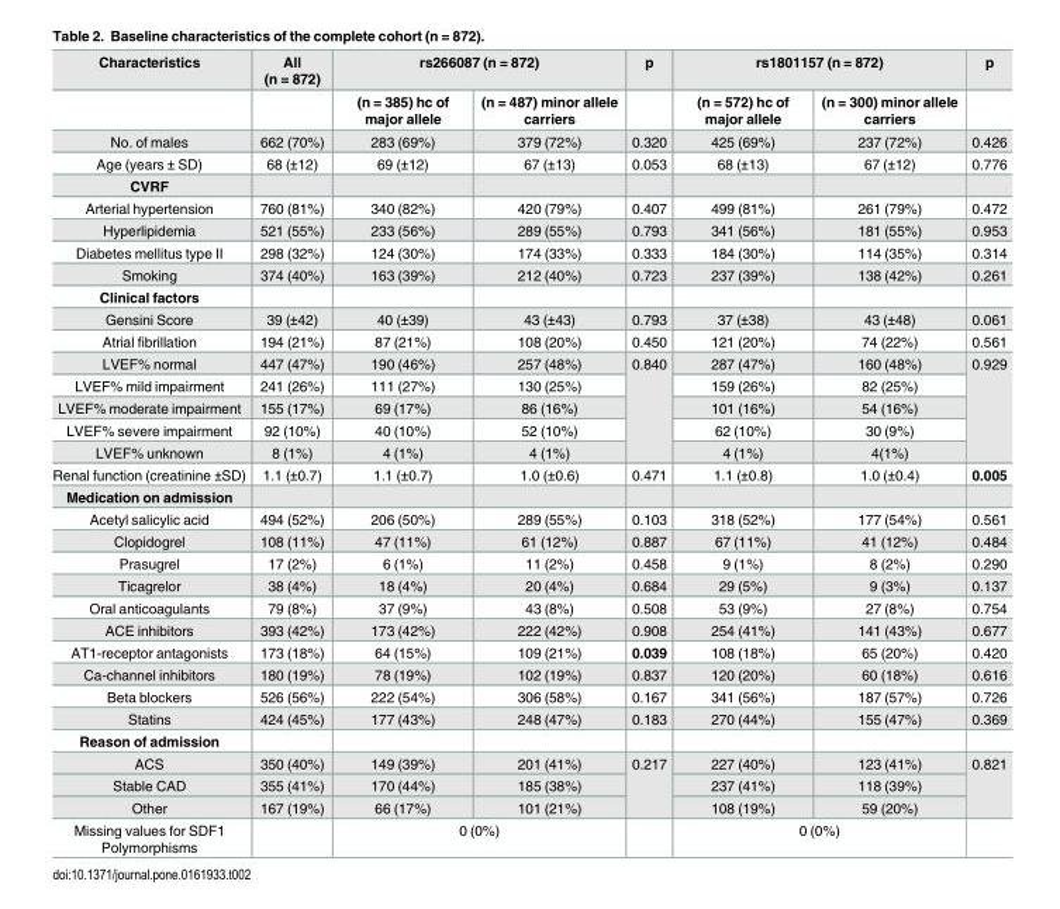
<table><thead><tr><td rowspan="2">Characteristics</td><td rowspan="2">All (n = 872)</td><td colspan="2">rs266087 (n = 872)</td><td rowspan="2">p</td><td colspan="2">rs1801157 (n = 872)</td><td rowspan="2">p</td></tr><tr><td>(n = 385) hc of major allele</td><td>(n = 487) minor allele carriers</td><td>(n = 572) hc of major allele</td><td>(n = 300) minor allele carriers</td></tr></thead><tbody><tr><td>No. of males</td><td>662 (70%)</td><td>283 (69%)</td><td>379 (72%)</td><td>0.320</td><td>425 (69%)</td><td>237 (72%)</td><td>0.426</td></tr><tr><td>Age (years ± SD)</td><td>68 (±12)</td><td>69 (±12)</td><td>67 (±13)</td><td>0.053</td><td>68 (±13)</td><td>67 (±12)</td><td>0.776</td></tr><tr><td colspan="8">CVRF</td></tr><tr><td>Arterial hypertension</td><td>760 (81%)</td><td>340 (82%)</td><td>420 (79%)</td><td>0.407</td><td>499 (81%)</td><td>261 (79%)</td><td>0.472</td></tr><tr><td>Hyperlipidemia</td><td>521 (55%)</td><td>233 (56%)</td><td>289 (55%)</td><td>0.793</td><td>341 (56%)</td><td>181 (55%)</td><td>0.953</td></tr><tr><td>Diabetes mellitus type II</td><td>298 (32%)</td><td>124 (30%)</td><td>174 (33%)</td><td>0.333</td><td>184 (30%)</td><td>114 (35%)</td><td>0.314</td></tr><tr><td>Smoking</td><td>374 (40%)</td><td>163 (39%)</td><td>212 (40%)</td><td>0.723</td><td>237 (39%)</td><td>138 (42%)</td><td>0.261</td></tr><tr><td colspan="8">Clinical factors</td></tr><tr><td>Gensini Score</td><td>39 (±42)</td><td>40 (±39)</td><td>43 (±43)</td><td>0.793</td><td>37 (±38)</td><td>43 (±48)</td><td>0.061</td></tr><tr><td>Atrial fibrillation</td><td>194 (21%)</td><td>87 (21%)</td><td>108 (20%)</td><td>0.450</td><td>121 (20%)</td><td>74 (22%)</td><td>0.561</td></tr><tr><td>LVEF% normal</td><td>447 (47%)</td><td>190 (46%)</td><td>257 (48%)</td><td rowspan="5">0.840</td><td>287 (47%)</td><td>160 (48%)</td><td rowspan="5">0.929</td></tr><tr><td>LVEF% mild impairment</td><td>241 (26%)</td><td>111 (27%)</td><td>130 (25%)</td><td>159 (26%)</td><td>82 (25%)</td></tr><tr><td>LVEF% moderate impairment</td><td>155 (17%)</td><td>69 (17%)</td><td>86 (16%)</td><td>101 (16%)</td><td>54 (16%)</td></tr><tr><td>LVEF% severe impairment</td><td>92 (10%)</td><td>40 (10%)</td><td>52 (10%)</td><td>62 (10%)</td><td>30 (9%)</td></tr><tr><td>LVEF% unknown</td><td>8 (1%)</td><td>4 (1%)</td><td>4 (1%)</td><td>4 (1%)</td><td>4(1%)</td></tr><tr><td>Renal function (creatinine ±SD)</td><td>1.1 (±0.7)</td><td>1.1 (±0.7)</td><td>1.0 (±0.6)</td><td>0.471</td><td>1.1 (±0.8)</td><td>1.0 (±0.4)</td><td>0.005</td></tr><tr><td colspan="8">Medication on admission</td></tr><tr><td>Acetyl salicylic acid</td><td>494 (52%)</td><td>206 (50%)</td><td>289 (55%)</td><td>0.103</td><td>318 (52%)</td><td>177 (54%)</td><td>0.561</td></tr><tr><td>Clopidogrel</td><td>108 (11%)</td><td>47 (11%)</td><td>61 (12%)</td><td>0.887</td><td>67 (11%)</td><td>41 (12%)</td><td>0.484</td></tr><tr><td>Prasugrel</td><td>17 (2%)</td><td>6 (1%)</td><td>11 (2%)</td><td>0.458</td><td>9 (1%)</td><td>8 (2%)</td><td>0.290</td></tr><tr><td>Ticagrelor</td><td>38 (4%)</td><td>18 (4%)</td><td>20 (4%)</td><td>0.684</td><td>29 (5%)</td><td>9 (3%)</td><td>0.137</td></tr><tr><td>Oral anticoagulants</td><td>79 (8%)</td><td>37 (9%)</td><td>43 (8%)</td><td>0.508</td><td>53 (9%)</td><td>27 (8%)</td><td>0.754</td></tr><tr><td>ACE inhibitors</td><td>393 (42%)</td><td>173 (42%)</td><td>222 (42%)</td><td>0.908</td><td>254 (41%)</td><td>141 (43%)</td><td>0.677</td></tr><tr><td>AT1-receptor antagonists</td><td>173 (18%)</td><td>64 (15%)</td><td>109 (21%)</td><td>0.039</td><td>108 (18%)</td><td>65 (20%)</td><td>0.420</td></tr><tr><td>Ca-channel inhibitors</td><td>180 (19%)</td><td>78 (19%)</td><td>102 (19%)</td><td>0.837</td><td>120 (20%)</td><td>60 (18%)</td><td>0.616</td></tr><tr><td>Beta blockers</td><td>526 (56%)</td><td>222 (54%)</td><td>306 (58%)</td><td>0.167</td><td>341 (56%)</td><td>187 (57%)</td><td>0.726</td></tr><tr><td>Statins</td><td>424 (45%)</td><td>177 (43%)</td><td>248 (47%)</td><td>0.183</td><td>270 (44%)</td><td>155 (47%)</td><td>0.369</td></tr><tr><td colspan="8">Reason of admission</td></tr><tr><td>ACS</td><td>350 (40%)</td><td>149 (39%)</td><td>201 (41%)</td><td rowspan="3">0.217</td><td>227 (40%)</td><td>123 (41%)</td><td rowspan="3">0.821</td></tr><tr><td>Stable CAD</td><td>355 (41%)</td><td>170 (44%)</td><td>185 (38%)</td><td>237 (41%)</td><td>118 (39%)</td></tr><tr><td>Other</td><td>167 (19%)</td><td>66 (17%)</td><td>101 (21%)</td><td>108 (19%)</td><td>59 (20%)</td></tr><tr><td>Missing values for SDF1 Polymorphisms</td><td></td><td colspan="2">0 (0%)</td><td></td><td colspan="2">0 (0%)</td><td></td></tr></tbody></table>